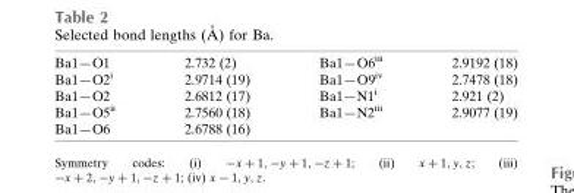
<table><tbody><tr><td>Ba1—O1</td><td>2.732 (2)</td><td>Ba1—O6<sup>iii</sup></td><td>2.9192 (18)</td></tr><tr><td>Ba1—O2<sup>i</sup></td><td>2.9714 (19)</td><td>Ba1—O9<sup>iv</sup></td><td>2.7478 (18)</td></tr><tr><td>Ba1—O2</td><td>2.6812 (17)</td><td>Ba1—N1<sup>i</sup></td><td>2.921 (2)</td></tr><tr><td>Ba1—O5<sup>ii</sup></td><td>2.7560 (18)</td><td>Ba1—N2<sup>iii</sup></td><td>2.9077 (19)</td></tr><tr><td>Ba1—O6</td><td>2.6788 (16)</td><td></td><td></td></tr></tbody></table>